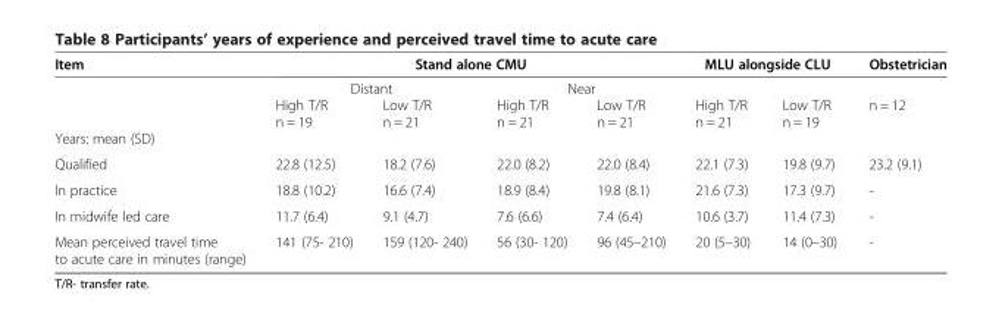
<table><thead><tr><td rowspan="4">Item</td><td colspan="4">Stand alone CMU</td><td colspan="2">MLU alongside CLU</td><td rowspan="4">Obstetrician n = 12</td></tr><tr><td colspan="2">Distant</td><td colspan="2">Near</td><td rowspan="3">High T/R n = 21</td><td rowspan="3">Low T/R n = 19</td></tr><tr><td rowspan="2">High T/R n = 19</td><td rowspan="2">Low T/R n = 21</td><td rowspan="2">High T/R n = 21</td><td rowspan="2">Low T/R n = 21</td></tr><tr></tr></thead><tbody><tr><td colspan="8">Years: mean (SD)</td></tr><tr><td>Qualified</td><td>22.8 (12.5)</td><td>18.2 (7.6)</td><td>22.0 (8.2)</td><td>22.0 (8.4)</td><td>22.1 (7.3)</td><td>19.8 (9.7)</td><td>23.2 (9.1)</td></tr><tr><td>In practice</td><td>18.8 (10.2)</td><td>16.6 (7.4)</td><td>18.9 (8.4)</td><td>19.8 (8.1)</td><td>21.6 (7.3)</td><td>17.3 (9.7)</td><td>-</td></tr><tr><td>In midwife led care</td><td>11.7 (6.4)</td><td>9.1 (4.7)</td><td>7.6 (6.6)</td><td>7.4 (6.4)</td><td>10.6 (3.7)</td><td>11.4 (7.3)</td><td>-</td></tr><tr><td>Mean perceived travel time to acute care in minutes (range)</td><td>141 (75- 210)</td><td>159 (120- 240)</td><td>56 (30- 120)</td><td>96 (45–210)</td><td>20 (5–30)</td><td>14 (0–30)</td><td>-</td></tr></tbody></table>